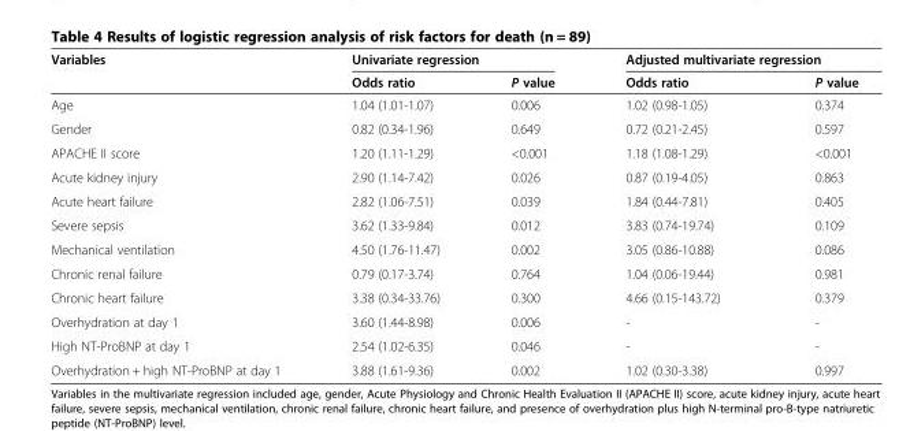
<table><thead><tr><td rowspan="2">Variables</td><td colspan="2">Univariate regression</td><td colspan="2">Adjusted multivariate regression</td></tr><tr><td>Odds ratio</td><td>P value</td><td>Odds ratio</td><td>P value</td></tr></thead><tbody><tr><td>Age</td><td>1.04 (1.01-1.07)</td><td>0.006</td><td>1.02 (0.98-1.05)</td><td>0.374</td></tr><tr><td>Gender</td><td>0.82 (0.34-1.96)</td><td>0.649</td><td>0.72 (0.21-2.45)</td><td>0.597</td></tr><tr><td>APACHE II score</td><td>1.20 (1.11-1.29)</td><td>&lt;0.001</td><td>1.18 (1.08-1.29)</td><td>&lt;0.001</td></tr><tr><td>Acute kidney injury</td><td>2.90 (1.14-7.42)</td><td>0.026</td><td>0.87 (0.19-4.05)</td><td>0.863</td></tr><tr><td>Acute heart failure</td><td>2.82 (1.06-7.51)</td><td>0.039</td><td>1.84 (0.44-7.81)</td><td>0.405</td></tr><tr><td>Severe sepsis</td><td>3.62 (1.33-9.84)</td><td>0.012</td><td>3.83 (0.74-19.74)</td><td>0.109</td></tr><tr><td>Mechanical ventilation</td><td>4.50 (1.76-11.47)</td><td>0.002</td><td>3.05 (0.86-10.88)</td><td>0.086</td></tr><tr><td>Chronic renal failure</td><td>0.79 (0.17-3.74)</td><td>0.764</td><td>1.04 (0.06-19.44)</td><td>0.981</td></tr><tr><td>Chronic heart failure</td><td>3.38 (0.34-33.76)</td><td>0.300</td><td>4.66 (0.15-143.72)</td><td>0.379</td></tr><tr><td>Overhydration at day 1</td><td>3.60 (1.44-8.98)</td><td>0.006</td><td>-</td><td>-</td></tr><tr><td>High NT-ProBNP at day 1</td><td>2.54 (1.02-6.35)</td><td>0.046</td><td>-</td><td>-</td></tr><tr><td>Overhydration + high NT-ProBNP at day 1</td><td>3.88 (1.61-9.36)</td><td>0.002</td><td>1.02 (0.30-3.38)</td><td>0.997</td></tr></tbody></table>